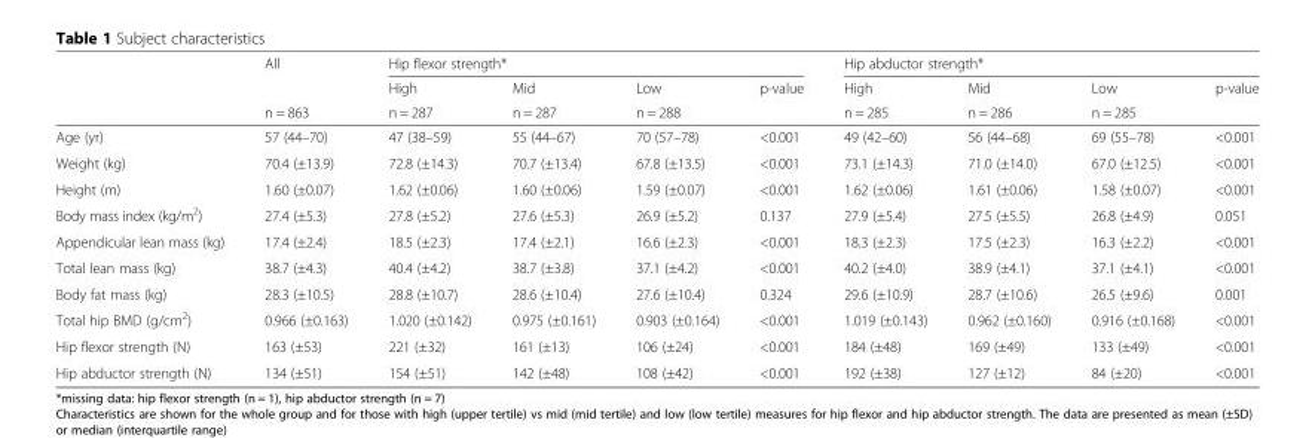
<table><thead><tr><td rowspan="3"></td><td rowspan="3">All n = 863</td><td colspan="4">Hip flexor strength*</td><td colspan="4">Hip abductor strength*</td></tr><tr><td rowspan="2">High n = 287</td><td rowspan="2">Mid n = 287</td><td rowspan="2">Low n = 288</td><td rowspan="2">p-value</td><td rowspan="2">High n = 285</td><td rowspan="2">Mid n = 286</td><td rowspan="2">Low n = 285</td><td rowspan="2">p-value</td></tr><tr></tr></thead><tbody><tr><td>Age (yr)</td><td>57 (44–70)</td><td>47 (38–59)</td><td>55 (44–67)</td><td>70 (57–78)</td><td>&lt;0.001</td><td>49 (42–60)</td><td>56 (44–68)</td><td>69 (55–78)</td><td>&lt;0.001</td></tr><tr><td>Weight (kg)</td><td>70.4 (±13.9)</td><td>72.8 (±14.3)</td><td>70.7 (±13.4)</td><td>67.8 (±13.5)</td><td>&lt;0.001</td><td>73.1 (±14.3)</td><td>71.0 (±14.0)</td><td>67.0 (±12.5)</td><td>&lt;0.001</td></tr><tr><td>Height (m)</td><td>1.60 (±0.07)</td><td>1.62 (±0.06)</td><td>1.60 (±0.06)</td><td>1.59 (±0.07)</td><td>&lt;0.001</td><td>1.62 (±0.06)</td><td>1.61 (±0.06)</td><td>1.58 (±0.07)</td><td>&lt;0.001</td></tr><tr><td>Body mass index (kg/m<sup>2</sup>)</td><td>27.4 (±5.3)</td><td>27.8 (±5.2)</td><td>27.6 (±5.3)</td><td>26.9 (±5.2)</td><td>0.137</td><td>27.9 (±5.4)</td><td>27.5 (±5.5)</td><td>26.8 (±4.9)</td><td>0.051</td></tr><tr><td>Appendicular lean mass (kg)</td><td>17.4 (±2.4)</td><td>18.5 (±2.3)</td><td>17.4 (±2.1)</td><td>16.6 (±2.3)</td><td>&lt;0.001</td><td>18.3 (±2.3)</td><td>17.5 (±2.3)</td><td>16.3 (±2.2)</td><td>&lt;0.001</td></tr><tr><td>Total lean mass (kg)</td><td>38.7 (±4.3)</td><td>40.4 (±4.2)</td><td>38.7 (±3.8)</td><td>37.1 (±4.2)</td><td>&lt;0.001</td><td>40.2 (±4.0)</td><td>38.9 (±4.1)</td><td>37.1 (±4.1)</td><td>&lt;0.001</td></tr><tr><td>Body fat mass (kg)</td><td>28.3 (±10.5)</td><td>28.8 (±10.7)</td><td>28.6 (±10.4)</td><td>27.6 (±10.4)</td><td>0.324</td><td>29.6 (±10.9)</td><td>28.7 (±10.6)</td><td>26.5 (±9.6)</td><td>0.001</td></tr><tr><td>Total hip BMD (g/cm<sup>2</sup>)</td><td>0.966 (±0.163)</td><td>1.020 (±0.142)</td><td>0.975 (±0.161)</td><td>0.903 (±0.164)</td><td>&lt;0.001</td><td>1.019 (±0.143)</td><td>0.962 (±0.160)</td><td>0.916 (±0.168)</td><td>&lt;0.001</td></tr><tr><td>Hip flexor strength (N)</td><td>163 (±53)</td><td>221 (±32)</td><td>161 (±13)</td><td>106 (±24)</td><td>&lt;0.001</td><td>184 (±48)</td><td>169 (±49)</td><td>133 (±49)</td><td>&lt;0.001</td></tr><tr><td>Hip abductor strength (N)</td><td>134 (±51)</td><td>154 (±51)</td><td>142 (±48)</td><td>108 (±42)</td><td>&lt;0.001</td><td>192 (±38)</td><td>127 (±12)</td><td>84 (±20)</td><td>&lt;0.001</td></tr></tbody></table>